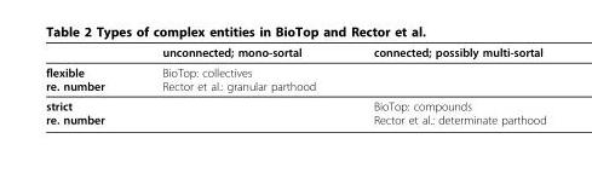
<table><thead><tr><td></td><td>unconnected; mono-sortal</td><td>connected; possibly multi-sortal</td></tr></thead><tbody><tr><td>flexible re. number</td><td>BioTop: collectives Rector et al.: granular parthood</td><td></td></tr><tr><td>strict re. number</td><td></td><td>BioTop: compounds Rector et al.: determinate parthood</td></tr></tbody></table>